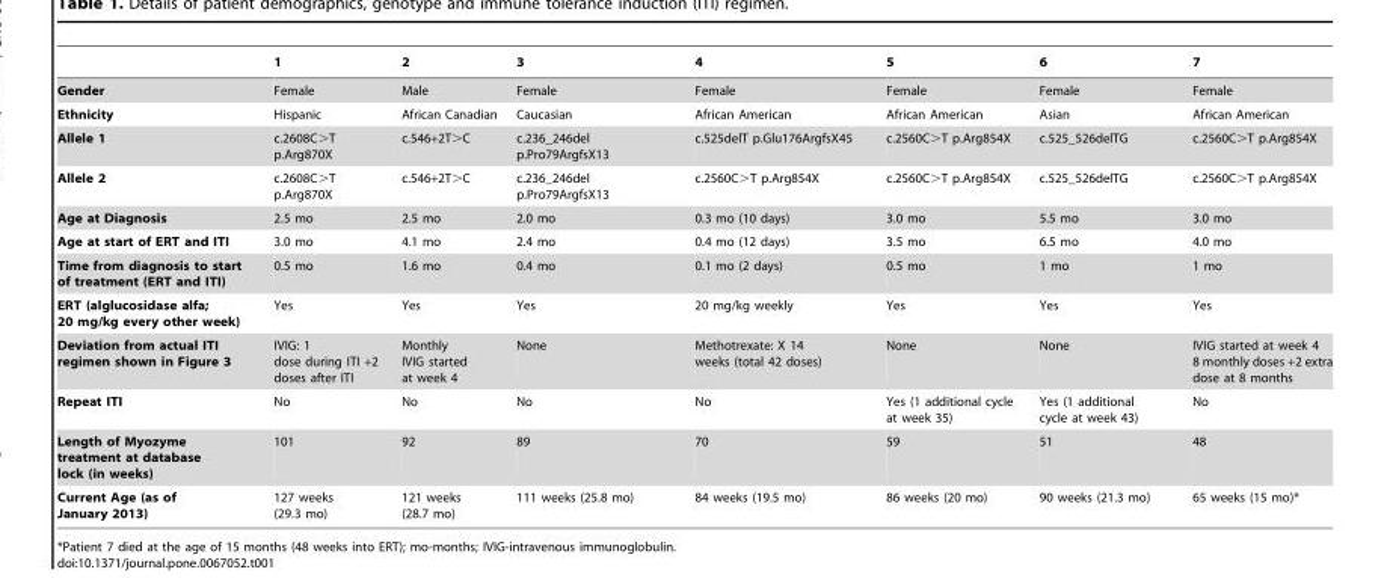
<table><thead><tr><td></td><td>1</td><td>2</td><td>3</td><td>4</td><td>5</td><td>6</td><td>7</td></tr></thead><tbody><tr><td>Gender</td><td>Female</td><td>Male</td><td>Female</td><td>Female</td><td>Female</td><td>Female</td><td>Female</td></tr><tr><td>Ethnicity</td><td>Hispanic</td><td>African Canadian</td><td>Caucasian</td><td>African American</td><td>African American</td><td>Asian</td><td>African American</td></tr><tr><td>Allele 1</td><td>c.2608C&gt;T p.Arg870X</td><td>c.546+2T&gt;C</td><td>c.236_246del p.Pro79ArgfsX13</td><td>c.525delT p.Glu176ArgfsX45</td><td>c.2560C&gt;T p.Arg854X</td><td>c.525_526delTG</td><td>c.2560C&gt;T p.Arg854X</td></tr><tr><td>Allele 2</td><td>c.2608C&gt;T p.Arg870X</td><td>c.546+2T&gt;C</td><td>c.236_246del p.Pro79ArgfsX13</td><td>c.2560C&gt;T p.Arg854X</td><td>c.2560C&gt;T p.Arg854X</td><td>c.525_526delTG</td><td>c.2560C&gt;T p.Arg854X</td></tr><tr><td>Age at Diagnosis</td><td>2.5 mo</td><td>2.5 mo</td><td>2.0 mo</td><td>0.3 mo (10 days)</td><td>3.0 mo</td><td>5.5 mo</td><td>3.0 mo</td></tr><tr><td>Age at start of ERT and ITI</td><td>3.0 mo</td><td>4.1 mo</td><td>2.4 mo</td><td>0.4 mo (12 days)</td><td>3.5 mo</td><td>6.5 mo</td><td>4.0 mo</td></tr><tr><td>Time from diagnosis to start of treatment (ERT and ITI)</td><td>0.5 mo</td><td>1.6 mo</td><td>0.4 mo</td><td>0.1 mo (2 days)</td><td>0.5 mo</td><td>1 mo</td><td>1 mo</td></tr><tr><td>ERT (alglucosidase alfa; 20 mg/kg every other week)</td><td>Yes</td><td>Yes</td><td>Yes</td><td>20 mg/kg weekly</td><td>Yes</td><td>Yes</td><td>Yes</td></tr><tr><td>Deviation from actual ITI regimen shown in Figure 3</td><td>IVIG: 1 dose during ITI +2 doses after ITI</td><td>Monthly IVIG started at week 4</td><td>None</td><td>Methotrexate: X 14 weeks (total 42 doses)</td><td>None</td><td>None</td><td>IVIG started at week 4 8 monthly doses +2 extra dose at 8 months</td></tr><tr><td>Repeat ITI</td><td>No</td><td>No</td><td>No</td><td>No</td><td>Yes (1 additional cycle at week 35)</td><td>Yes (1 additional cycle at week 43)</td><td>No</td></tr><tr><td>Length of Myozyme treatment at database lock (in weeks)</td><td>101</td><td>92</td><td>89</td><td>70</td><td>59</td><td>51</td><td>48</td></tr><tr><td>Current Age (as of January 2013)</td><td>127 weeks (29.3 mo)</td><td>121 weeks (28.7 mo)</td><td>111 weeks (25.8 mo)</td><td>84 weeks (19.5 mo)</td><td>86 weeks (20 mo)</td><td>90 weeks (21.3 mo)</td><td>65 weeks (15 mo)*</td></tr></tbody></table>